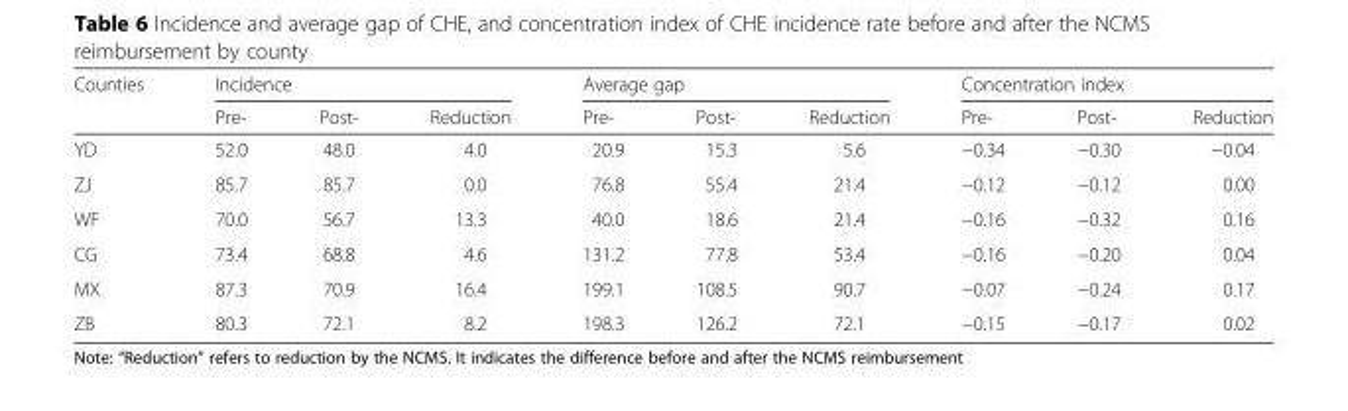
<table><thead><tr><td rowspan="2">Counties</td><td colspan="3">Incidence</td><td colspan="3">Average gap</td><td colspan="3">Concentration index</td></tr><tr><td>Pre-</td><td>Post-</td><td>Reduction</td><td>Pre-</td><td>Post-</td><td>Reduction</td><td>Pre-</td><td>Post-</td><td>Reduction</td></tr></thead><tbody><tr><td>YD</td><td>52.0</td><td>48.0</td><td>4.0</td><td>20.9</td><td>15.3</td><td>5.6</td><td>−0.34</td><td>−0.30</td><td>−0.04</td></tr><tr><td>ZJ</td><td>85.7</td><td>85.7</td><td>0.0</td><td>76.8</td><td>55.4</td><td>21.4</td><td>−0.12</td><td>−0.12</td><td>0.00</td></tr><tr><td>WF</td><td>70.0</td><td>56.7</td><td>13.3</td><td>40.0</td><td>18.6</td><td>21.4</td><td>−0.16</td><td>−0.32</td><td>0.16</td></tr><tr><td>CG</td><td>73.4</td><td>68.8</td><td>4.6</td><td>131.2</td><td>77.8</td><td>53.4</td><td>−0.16</td><td>−0.20</td><td>0.04</td></tr><tr><td>MX</td><td>87.3</td><td>70.9</td><td>16.4</td><td>199.1</td><td>108.5</td><td>90.7</td><td>−0.07</td><td>−0.24</td><td>0.17</td></tr><tr><td>ZB</td><td>80.3</td><td>72.1</td><td>8.2</td><td>198.3</td><td>126.2</td><td>72.1</td><td>−0.15</td><td>−0.17</td><td>0.02</td></tr></tbody></table>